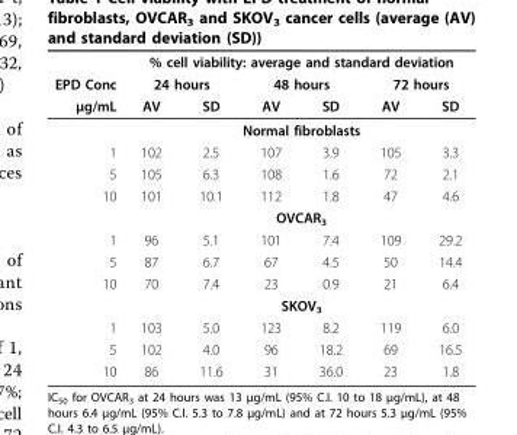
<table><thead><tr><td rowspan="3">EPD Conc μg/mL</td><td colspan="6">% cell viability: average and standard deviation</td></tr><tr><td colspan="2">24 hours</td><td colspan="2">48 hours</td><td colspan="2">72 hours</td></tr><tr><td>AV</td><td>SD</td><td>AV</td><td>SD</td><td>AV</td><td>SD</td></tr></thead><tbody><tr><td></td><td colspan="6">Normal fibroblasts</td></tr><tr><td>1</td><td>102</td><td>2.5</td><td>107</td><td>3.9</td><td>105</td><td>3.3</td></tr><tr><td>5</td><td>105</td><td>6.3</td><td>108</td><td>1.6</td><td>72</td><td>2.1</td></tr><tr><td rowspan="2">10</td><td>101</td><td>10.1</td><td>112</td><td>1.8</td><td>47</td><td>4.6</td></tr><tr><td colspan="6">OVCAR<sub>3</sub></td></tr><tr><td>1</td><td>96</td><td>5.1</td><td>101</td><td>7.4</td><td>109</td><td>29.2</td></tr><tr><td>5</td><td>87</td><td>6.7</td><td>67</td><td>4.5</td><td>50</td><td>14.4</td></tr><tr><td rowspan="2">10</td><td>70</td><td>7.4</td><td>23</td><td>0.9</td><td>21</td><td>6.4</td></tr><tr><td colspan="6">SKOV<sub>3</sub></td></tr><tr><td>1</td><td>103</td><td>5.0</td><td>123</td><td>8.2</td><td>119</td><td>6.0</td></tr><tr><td>5</td><td>102</td><td>4.0</td><td>96</td><td>18.2</td><td>69</td><td>16.5</td></tr><tr><td>10</td><td>86</td><td>11.6</td><td>31</td><td>36.0</td><td>23</td><td>1.8</td></tr></tbody></table>